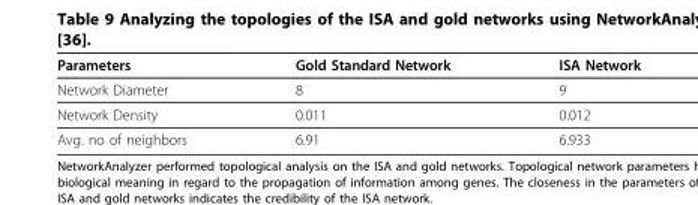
<table><thead><tr><td>Parameters</td><td>Gold Standard Network</td><td>ISA Network</td></tr></thead><tbody><tr><td>Network Diameter</td><td>8</td><td>9</td></tr><tr><td>Network Density</td><td>0.011</td><td>0.012</td></tr><tr><td>Avg. no of neighbors</td><td>6.91</td><td>6.933</td></tr></tbody></table>